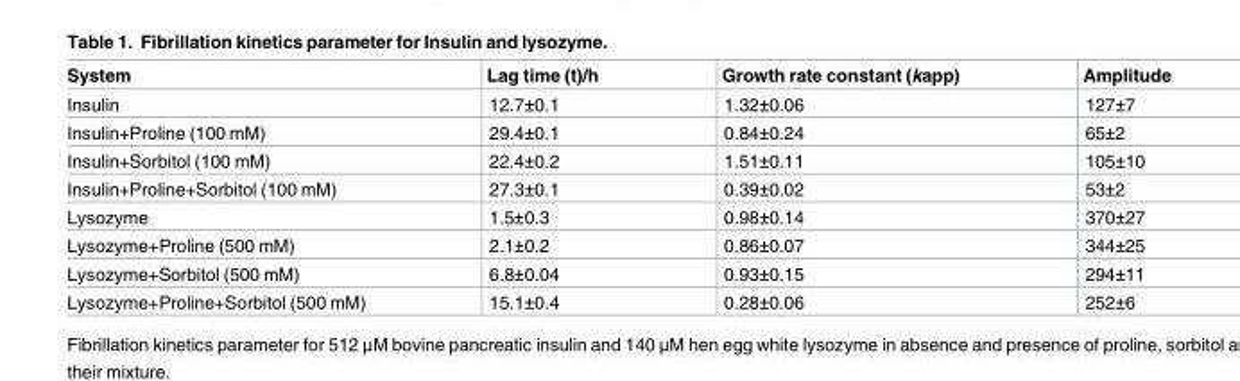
<table><thead><tr><td>System</td><td>Lag time (t)/h</td><td>Growth rate constant (kapp)</td><td>Amplitude</td></tr></thead><tbody><tr><td>Insulin</td><td>12.7±0.1</td><td>1.32±0.06</td><td>127±7</td></tr><tr><td>Insulin+Proline (100 mM)</td><td>29.4±0.1</td><td>0.84±0.24</td><td>65±2</td></tr><tr><td>Insulin+Sorbitol (100 mM)</td><td>22.4±0.2</td><td>1.51±0.11</td><td>105±10</td></tr><tr><td>Insulin+Proline+Sorbitol (100 mM)</td><td>27.3±0.1</td><td>0.39±0.02</td><td>53±2</td></tr><tr><td>Lysozyme</td><td>1.5±0.3</td><td>0.98±0.14</td><td>370±27</td></tr><tr><td>Lysozyme+Proline (500 mM)</td><td>2.1±0.2</td><td>0.86±0.07</td><td>344±25</td></tr><tr><td>Lysozyme+Sorbitol (500 mM)</td><td>6.8±0.04</td><td>0.93±0.15</td><td>294±11</td></tr><tr><td>Lysozyme+Proline+Sorbitol (500 mM)</td><td>15.1±0.4</td><td>0.28±0.06</td><td>252±6</td></tr></tbody></table>